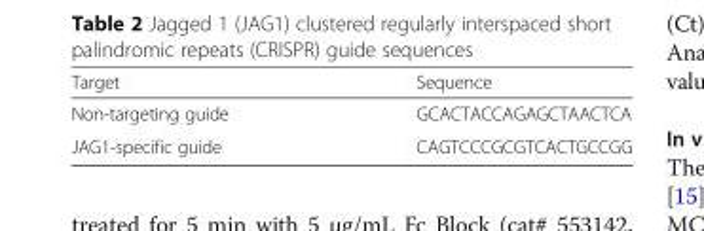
<table><thead><tr><td>Target</td><td>Sequence</td></tr></thead><tbody><tr><td>Non-targeting guide</td><td>GCACTACCAGAGCTAACTCA</td></tr><tr><td>JAG1-specific guide</td><td>CAGTCCCGCGTCACTGCCGG</td></tr></tbody></table>